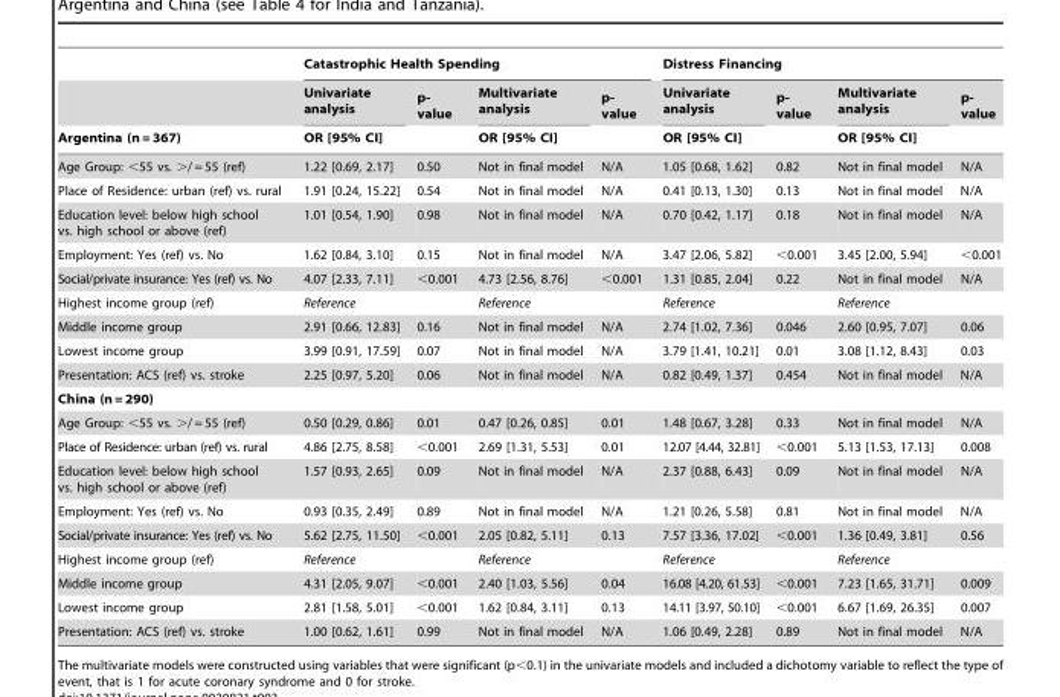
<table><thead><tr><td rowspan="3">Argentina (n = 367)</td><td colspan="4">Catastrophic Health Spending</td><td colspan="4">Distress Financing</td></tr><tr><td rowspan="2">Univariate analysis OR [95% CI]</td><td rowspan="2">p- value</td><td rowspan="2">Multivariate analysis OR [95% CI]</td><td rowspan="2">p- value</td><td rowspan="2">Univariate analysis OR [95% CI]</td><td rowspan="2">p- value</td><td rowspan="2">Multivariate analysis OR [95% CI]</td><td rowspan="2">p- value</td></tr><tr></tr></thead><tbody><tr><td>Age Group: &lt;55 vs. &gt;/ = 55 (ref)</td><td>1.22 [0.69, 2.17]</td><td>0.50</td><td>Not in final model</td><td>N/A</td><td>1.05 [0.68, 1.62]</td><td>0.82</td><td>Not in final model</td><td>N/A</td></tr><tr><td>Place of Residence: urban (ref) vs. rural</td><td>1.91 [0.24, 15.22]</td><td>0.54</td><td>Not in final model</td><td>N/A</td><td>0.41 [0.13, 1.30]</td><td>0.13</td><td>Not in final model</td><td>N/A</td></tr><tr><td>Education level: below high school vs. high school or above (ref)</td><td>1.01 [0.54, 1.90]</td><td>0.98</td><td>Not in final model</td><td>N/A</td><td>0.70 [0.42, 1.17]</td><td>0.18</td><td>Not in final model</td><td>N/A</td></tr><tr><td>Employment: Yes (ref) vs. No</td><td>1.62 [0.84, 3.10]</td><td>0.15</td><td>Not in final model</td><td>N/A</td><td>3.47 [2.06, 5.82]</td><td>&lt;0.001</td><td>3.45 [2.00, 5.94]</td><td>&lt;0.001</td></tr><tr><td>Social/private insurance: Yes (ref) vs. No</td><td>4.07 [2.33, 7.11]</td><td>&lt;0.001</td><td>4.73 [2.56, 8.76]</td><td>&lt;0.001</td><td>1.31 [0.85, 2.04]</td><td>0.22</td><td>Not in final model</td><td>N/A</td></tr><tr><td>Highest income group (ref)</td><td>Reference</td><td></td><td>Reference</td><td></td><td>Reference</td><td></td><td>Reference</td><td></td></tr><tr><td>Middle income group</td><td>2.91 [0.66, 12.83]</td><td>0.16</td><td>Not in final model</td><td>N/A</td><td>2.74 [1.02, 7.36]</td><td>0.046</td><td>2.60 [0.95, 7.07]</td><td>0.06</td></tr><tr><td>Lowest income group</td><td>3.99 [0.91, 17.59]</td><td>0.07</td><td>Not in final model</td><td>N/A</td><td>3.79 [1.41, 10.21]</td><td>0.01</td><td>3.08 [1.12, 8.43]</td><td>0.03</td></tr><tr><td>Presentation: ACS (ref) vs. stroke</td><td>2.25 [0.97, 5.20]</td><td>0.06</td><td>Not in final model</td><td>N/A</td><td>0.82 [0.49, 1.37]</td><td>0.454</td><td>Not in final model</td><td>N/A</td></tr><tr><td colspan="9">China (n = 290)</td></tr><tr><td>Age Group: &lt;55 vs. &gt;/ = 55 (ref)</td><td>0.50 [0.29, 0.86]</td><td>0.01</td><td>0.47 [0.26, 0.85]</td><td>0.01</td><td>1.48 [0.67, 3.28]</td><td>0.33</td><td>Not in final model</td><td>N/A</td></tr><tr><td>Place of Residence: urban (ref) vs. rural</td><td>4.86 [2.75, 8.58]</td><td>&lt;0.001</td><td>2.69 [1.31, 5.53]</td><td>0.01</td><td>12.07 [4.44, 32.81]</td><td>&lt;0.001</td><td>5.13 [1.53, 17.13]</td><td>0.008</td></tr><tr><td>Education level: below high school vs. high school or above (ref)</td><td>1.57 [0.93, 2.65]</td><td>0.09</td><td>Not in final model</td><td>N/A</td><td>2.37 [0.88, 6.43]</td><td>0.09</td><td>Not in final model</td><td>N/A</td></tr><tr><td>Employment: Yes (ref) vs. No</td><td>0.93 [0.35, 2.49]</td><td>0.89</td><td>Not in final model</td><td>N/A</td><td>1.21 [0.26, 5.58]</td><td>0.81</td><td>Not in final model</td><td>N/A</td></tr><tr><td>Social/private insurance: Yes (ref) vs. No</td><td>5.62 [2.75, 11.50]</td><td>&lt;0.001</td><td>2.05 [0.82, 5.11]</td><td>0.13</td><td>7.57 [3.36, 17.02]</td><td>&lt;0.001</td><td>1.36 [0.49, 3.81]</td><td>0.56</td></tr><tr><td>Highest income group (ref)</td><td>Reference</td><td></td><td>Reference</td><td></td><td>Reference</td><td></td><td>Reference</td><td></td></tr><tr><td>Middle income group</td><td>4.31 [2.05, 9.07]</td><td>&lt;0.001</td><td>2.40 [1.03, 5.56]</td><td>0.04</td><td>16.08 [4.20, 61.53]</td><td>&lt;0.001</td><td>7.23 [1.65, 31.71]</td><td>0.009</td></tr><tr><td>Lowest income group</td><td>2.81 [1.58, 5.01]</td><td>&lt;0.001</td><td>1.62 [0.84, 3.11]</td><td>0.13</td><td>14.11 [3.97, 50.10]</td><td>&lt;0.001</td><td>6.67 [1.69, 26.35]</td><td>0.007</td></tr><tr><td>Presentation: ACS (ref) vs. stroke</td><td>1.00 [0.62, 1.61]</td><td>0.99</td><td>Not in final model</td><td>N/A</td><td>1.06 [0.49, 2.28]</td><td>0.89</td><td>Not in final model</td><td>N/A</td></tr></tbody></table>